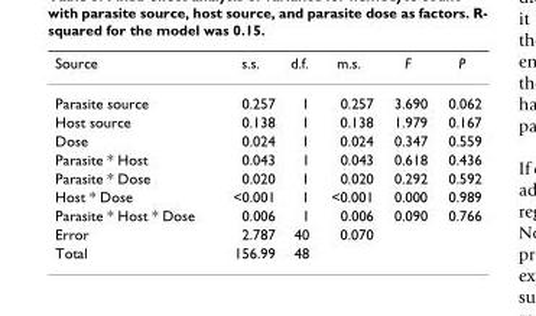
<table><thead><tr><td>Source</td><td>s.s.</td><td>d.f.</td><td>m.s.</td><td>F</td><td>P</td></tr></thead><tbody><tr><td>Parasite source</td><td>0.257</td><td>1</td><td>0.257</td><td>3.690</td><td>0.062</td></tr><tr><td>Host source</td><td>0.138</td><td>1</td><td>0.138</td><td>1.979</td><td>0.167</td></tr><tr><td>Dose</td><td>0.024</td><td>1</td><td>0.024</td><td>0.347</td><td>0.559</td></tr><tr><td>Parasite * Host</td><td>0.043</td><td>1</td><td>0.043</td><td>0.618</td><td>0.436</td></tr><tr><td>Parasite * Dose</td><td>0.020</td><td>1</td><td>0.020</td><td>0.292</td><td>0.592</td></tr><tr><td>Host * Dose</td><td>&lt;0.001</td><td>1</td><td>&lt;0.001</td><td>0.000</td><td>0.989</td></tr><tr><td>Parasite * Host * Dose</td><td>0.006</td><td>1</td><td>0.006</td><td>0.090</td><td>0.766</td></tr><tr><td>Error</td><td>2.787</td><td>40</td><td>0.070</td><td></td><td></td></tr><tr><td>Total</td><td>156.99</td><td>48</td><td></td><td></td><td></td></tr></tbody></table>